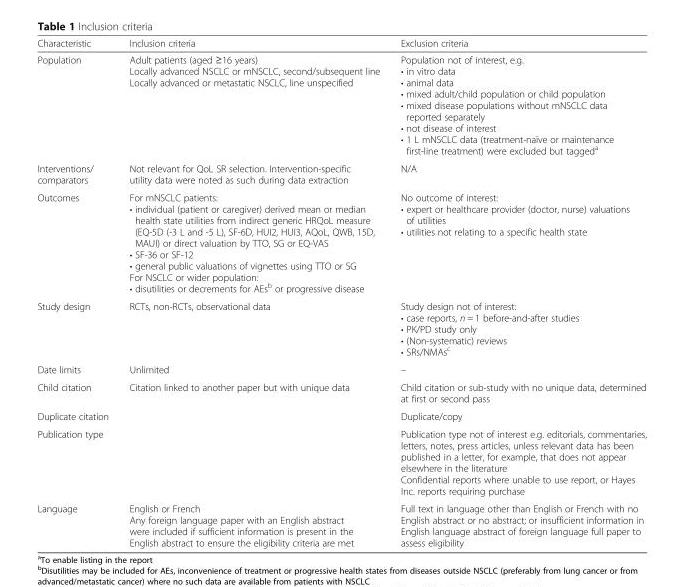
<table><thead><tr><td>Characteristic</td><td>Inclusion criteria</td><td>Exclusion criteria</td></tr></thead><tbody><tr><td>Population</td><td>Adult patients (aged ≥16 years) Locally advanced NSCLC or mNSCLC, second/subsequent line Locally advanced or metastatic NSCLC, line unspecified</td><td>Population not of interest, e.g. • in vitro data • animal data • mixed adult/child population or child population • mixed disease populations without mNSCLC data reported separately • not disease of interest • 1 L mNSCLC data (treatment-naïve or maintenance first-line treatment) were excluded but tagged<sup>a</sup></td></tr><tr><td>Interventions/ comparators</td><td>Not relevant for QoL SR selection. Intervention-specific utility data were noted as such during data extraction</td><td>N/A</td></tr><tr><td>Outcomes</td><td>For mNSCLC patients: • individual (patient or caregiver) derived mean or median health state utilities from indirect generic HRQoL measure (EQ-5D (-3 L and -5 L), SF-6D, HUI2, HUI3, AQoL, QWB, 15D, MAUI) or direct valuation by TTO, SG or EQ-VAS • SF-36 or SF-12 • general public valuations of vignettes using TTO or SG For NSCLC or wider population: • disutilities or decrements for AEs<sup>b</sup> or progressive disease</td><td>No outcome of interest: • expert or healthcare provider (doctor, nurse) valuations of utilities • utilities not relating to a specific health state</td></tr><tr><td>Study design</td><td>RCTs, non-RCTs, observational data</td><td>Study design not of interest: • case reports, n = 1 before-and-after studies • PK/PD study only • (Non-systematic) reviews • SRs/NMAs<sup>c</sup></td></tr><tr><td>Date limits</td><td>Unlimited</td><td>–</td></tr><tr><td>Child citation</td><td>Citation linked to another paper but with unique data</td><td>Child citation or sub-study with no unique data, determined at first or second pass</td></tr><tr><td>Duplicate citation</td><td></td><td>Duplicate/copy</td></tr><tr><td>Publication type</td><td></td><td>Publication type not of interest e.g. editorials, commentaries, letters, notes, press articles, unless relevant data has been published in a letter, for example, that does not appear elsewhere in the literature Confidential reports where unable to use report, or Hayes Inc. reports requiring purchase</td></tr><tr><td>Language</td><td>English or French Any foreign language paper with an English abstract were included if sufficient information is present in the English abstract to ensure the eligibility criteria are met</td><td>Full text in language other than English or French with no English abstract or no abstract; or insufficient information in English language abstract of foreign language full paper to assess eligibility</td></tr></tbody></table>